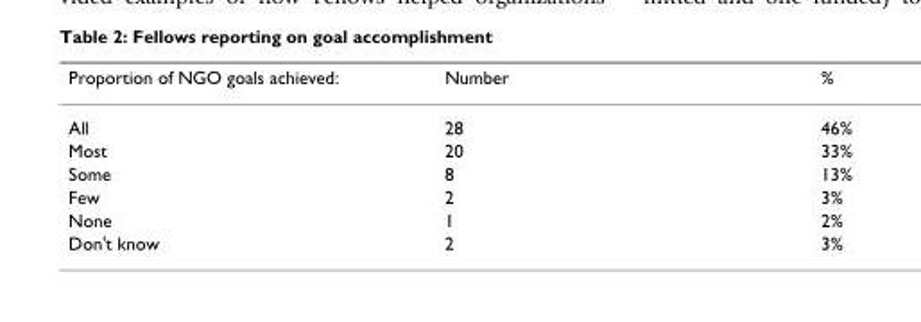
<table><thead><tr><td>Proportion of NGO goals achieved:</td><td>Number</td><td>%</td></tr></thead><tbody><tr><td>All</td><td>28</td><td>46%</td></tr><tr><td>Most</td><td>20</td><td>33%</td></tr><tr><td>Some</td><td>8</td><td>13%</td></tr><tr><td>Few</td><td>2</td><td>3%</td></tr><tr><td>None</td><td>1</td><td>2%</td></tr><tr><td>Don&#x27;t know</td><td>2</td><td>3%</td></tr></tbody></table>